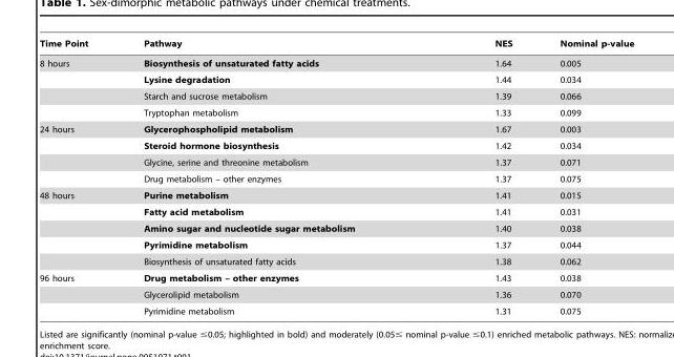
<table><thead><tr><td>Time Point</td><td>Pathway</td><td>NES</td><td>Nominal p-value</td></tr></thead><tbody><tr><td rowspan="4">8 hours</td><td>Biosynthesis of unsaturated fatty acids</td><td>1.64</td><td>0.005</td></tr><tr><td>Lysine degradation</td><td>1.44</td><td>0.034</td></tr><tr><td>Starch and sucrose metabolism</td><td>1.39</td><td>0.066</td></tr><tr><td>Tryptophan metabolism</td><td>1.33</td><td>0.099</td></tr><tr><td rowspan="4">24 hours</td><td>Glycerophospholipid metabolism</td><td>1.67</td><td>0.003</td></tr><tr><td>Steroid hormone biosynthesis</td><td>1.42</td><td>0.034</td></tr><tr><td>Glycine, serine and threonine metabolism</td><td>1.37</td><td>0.071</td></tr><tr><td>Drug metabolism – other enzymes</td><td>1.37</td><td>0.075</td></tr><tr><td rowspan="5">48 hours</td><td>Purine metabolism</td><td>1.41</td><td>0.015</td></tr><tr><td>Fatty acid metabolism</td><td>1.41</td><td>0.031</td></tr><tr><td>Amino sugar and nucleotide sugar metabolism</td><td>1.40</td><td>0.038</td></tr><tr><td>Pyrimidine metabolism</td><td>1.37</td><td>0.044</td></tr><tr><td>Biosynthesis of unsaturated fatty acids</td><td>1.38</td><td>0.062</td></tr><tr><td rowspan="3">96 hours</td><td>Drug metabolism – other enzymes</td><td>1.43</td><td>0.038</td></tr><tr><td>Glycerolipid metabolism</td><td>1.36</td><td>0.070</td></tr><tr><td>Pyrimidine metabolism</td><td>1.31</td><td>0.075</td></tr></tbody></table>